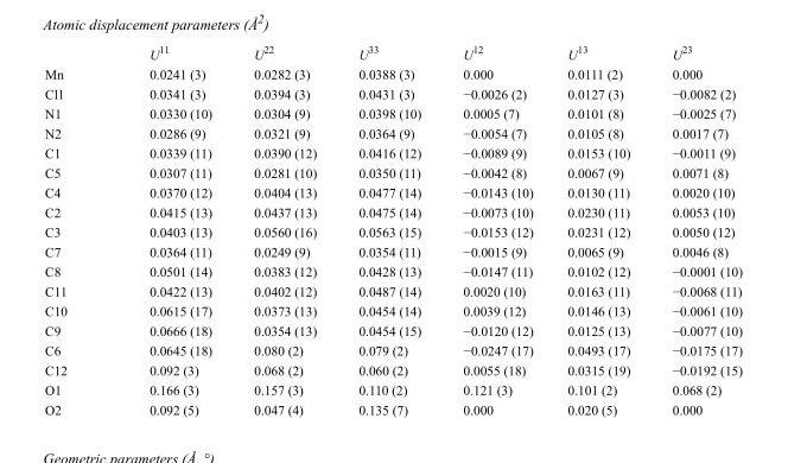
<table><thead><tr><td></td><td>U<sup>11</sup></td><td>U<sup>22</sup></td><td>U<sup>33</sup></td><td>U<sup>12</sup></td><td>U<sup>13</sup></td><td>U<sup>23</sup></td></tr></thead><tbody><tr><td>Mn</td><td>0.0241 (3)</td><td>0.0282 (3)</td><td>0.0388 (3)</td><td>0.000</td><td>0.0111 (2)</td><td>0.000</td></tr><tr><td>Cl1</td><td>0.0341 (3)</td><td>0.0394 (3)</td><td>0.0431 (3)</td><td>−0.0026 (2)</td><td>0.0127 (3)</td><td>−0.0082 (2)</td></tr><tr><td>N1</td><td>0.0330 (10)</td><td>0.0304 (9)</td><td>0.0398 (10)</td><td>0.0005 (7)</td><td>0.0101 (8)</td><td>−0.0025 (7)</td></tr><tr><td>N2</td><td>0.0286 (9)</td><td>0.0321 (9)</td><td>0.0364 (9)</td><td>−0.0054 (7)</td><td>0.0105 (8)</td><td>0.0017 (7)</td></tr><tr><td>C1</td><td>0.0339 (11)</td><td>0.0390 (12)</td><td>0.0416 (12)</td><td>−0.0089 (9)</td><td>0.0153 (10)</td><td>−0.0011 (9)</td></tr><tr><td>C5</td><td>0.0307 (11)</td><td>0.0281 (10)</td><td>0.0350 (11)</td><td>−0.0042 (8)</td><td>0.0067 (9)</td><td>0.0071 (8)</td></tr><tr><td>C4</td><td>0.0370 (12)</td><td>0.0404 (13)</td><td>0.0477 (14)</td><td>−0.0143 (10)</td><td>0.0130 (11)</td><td>0.0020 (10)</td></tr><tr><td>C2</td><td>0.0415 (13)</td><td>0.0437 (13)</td><td>0.0475 (14)</td><td>−0.0073 (10)</td><td>0.0230 (11)</td><td>0.0053 (10)</td></tr><tr><td>C3</td><td>0.0403 (13)</td><td>0.0560 (16)</td><td>0.0563 (15)</td><td>−0.0153 (12)</td><td>0.0231 (12)</td><td>0.0050 (12)</td></tr><tr><td>C7</td><td>0.0364 (11)</td><td>0.0249 (9)</td><td>0.0354 (11)</td><td>−0.0015 (9)</td><td>0.0065 (9)</td><td>0.0046 (8)</td></tr><tr><td>C8</td><td>0.0501 (14)</td><td>0.0383 (12)</td><td>0.0428 (13)</td><td>−0.0147 (11)</td><td>0.0102 (12)</td><td>−0.0001 (10)</td></tr><tr><td>C11</td><td>0.0422 (13)</td><td>0.0402 (12)</td><td>0.0487 (14)</td><td>0.0020 (10)</td><td>0.0163 (11)</td><td>−0.0068 (11)</td></tr><tr><td>C10</td><td>0.0615 (17)</td><td>0.0373 (13)</td><td>0.0454 (14)</td><td>0.0039 (12)</td><td>0.0146 (13)</td><td>−0.0061 (10)</td></tr><tr><td>C9</td><td>0.0666 (18)</td><td>0.0354 (13)</td><td>0.0454 (15)</td><td>−0.0120 (12)</td><td>0.0125 (13)</td><td>−0.0077 (10)</td></tr><tr><td>C6</td><td>0.0645 (18)</td><td>0.080 (2)</td><td>0.079 (2)</td><td>−0.0247 (17)</td><td>0.0493 (17)</td><td>−0.0175 (17)</td></tr><tr><td>C12</td><td>0.092 (3)</td><td>0.068 (2)</td><td>0.060 (2)</td><td>0.0055 (18)</td><td>0.0315 (19)</td><td>−0.0192 (15)</td></tr><tr><td>O1</td><td>0.166 (3)</td><td>0.157 (3)</td><td>0.110 (2)</td><td>0.121 (3)</td><td>0.101 (2)</td><td>0.068 (2)</td></tr><tr><td>O2</td><td>0.092 (5)</td><td>0.047 (4)</td><td>0.135 (7)</td><td>0.000</td><td>0.020 (5)</td><td>0.000</td></tr></tbody></table>